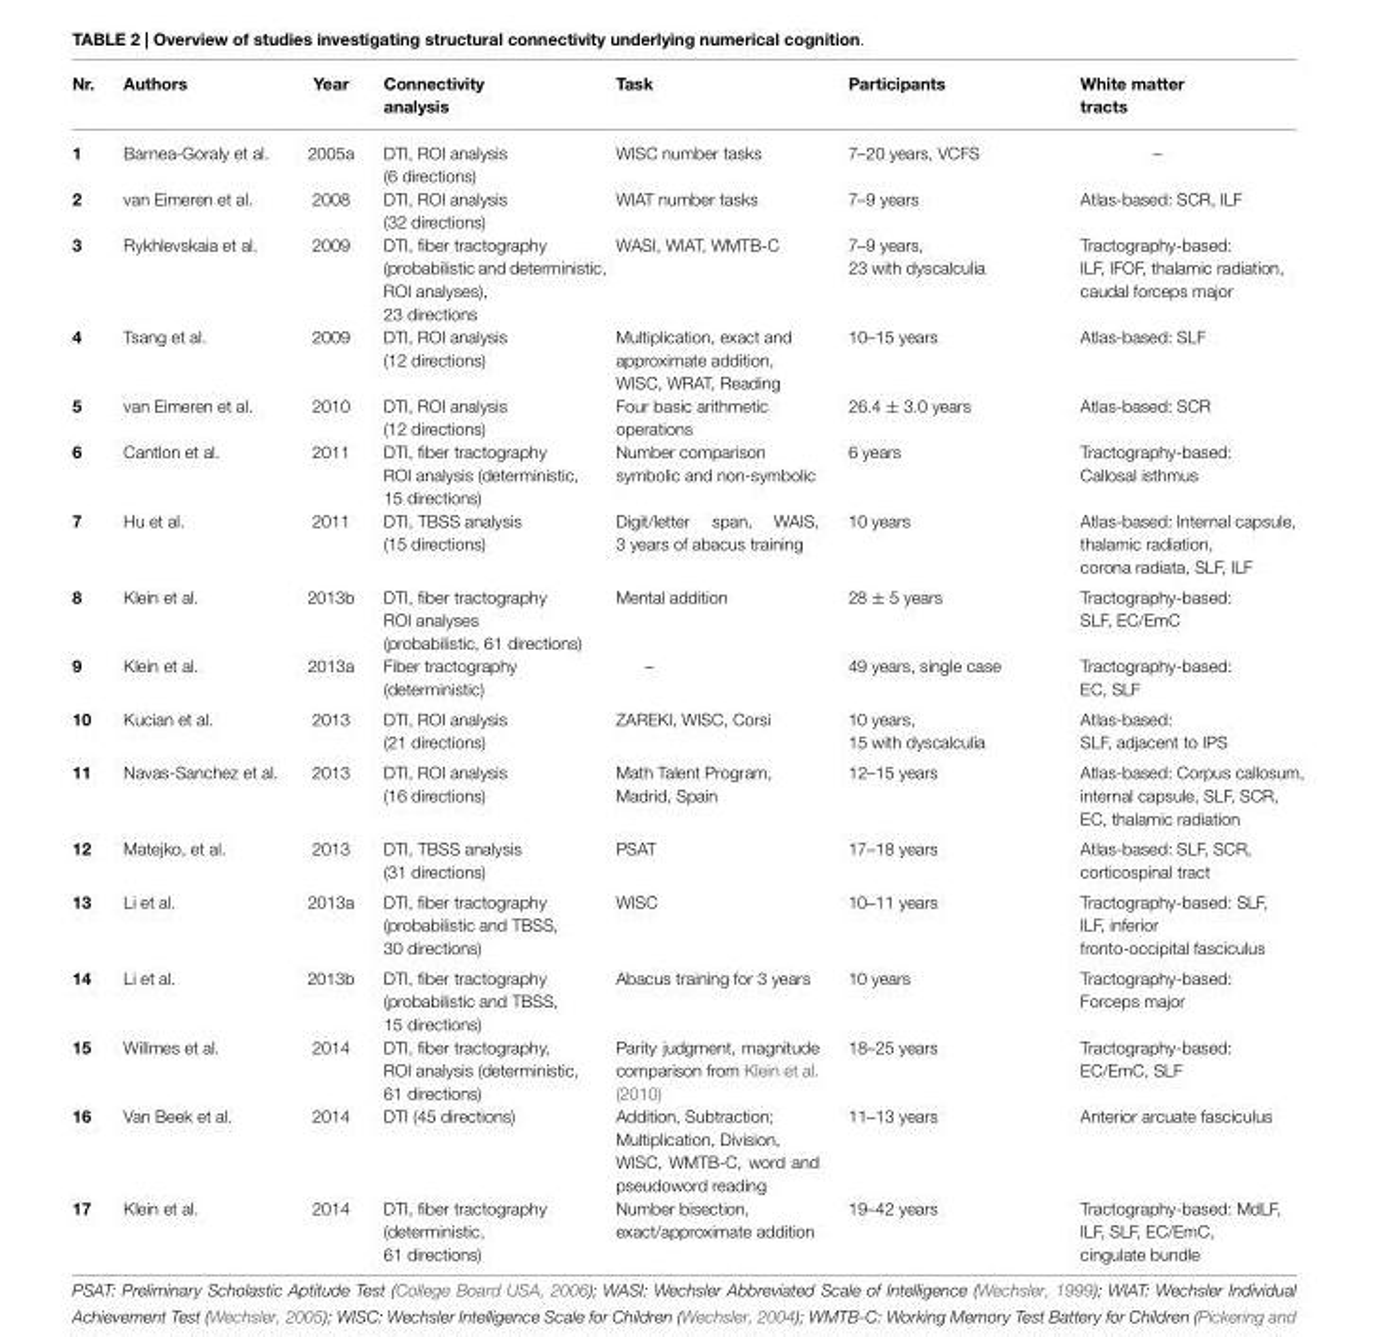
<table><thead><tr><td>Nr.</td><td>Authors</td><td>Year</td><td>Connectivity analysis</td><td>Task</td><td>Participants</td><td>White matter tracts</td></tr></thead><tbody><tr><td>1</td><td>Barnea-Goraly et al.</td><td>2005a</td><td>DTI, ROI analysis (6 directions)</td><td>WISC number tasks</td><td>7–20 years, VCFS</td><td>–</td></tr><tr><td>2</td><td>van Eimeren et al.</td><td>2008</td><td>DTI, ROI analysis (32 directions)</td><td>WIAT number tasks</td><td>7–9 years</td><td>Atlas-based: SCR, ILF</td></tr><tr><td>3</td><td>Rykhlevskaia et al.</td><td>2009</td><td>DTI, fiber tractography (probabilistic and deterministic, ROI analyses), 23 directions</td><td>WASI, WIAT, WMTB-C</td><td>7–9 years, 23 with dyscalculia</td><td>Tractography-based: ILF, IFOF, thalamic radiation, caudal forceps major</td></tr><tr><td>4</td><td>Tsang et al.</td><td>2009</td><td>DTI, ROI analysis (12 directions)</td><td>Multiplication, exact and approximate addition, WISC, WRAT, Reading</td><td>10–15 years</td><td>Atlas-based: SLF</td></tr><tr><td>5</td><td>van Eimeren et al.</td><td>2010</td><td>DTI, ROI analysis (12 directions)</td><td>Four basic arithmetic operations</td><td>26.4 ± 3.0 years</td><td>Atlas-based: SCR</td></tr><tr><td>6</td><td>Cantlon et al.</td><td>2011</td><td>DTI, fiber tractography ROI analysis (deterministic, 15 directions)</td><td>Number comparison symbolic and non-symbolic</td><td>6 years</td><td>Tractography-based: Callosal isthmus</td></tr><tr><td>7</td><td>Hu et al.</td><td>2011</td><td>DTI, TBSS analysis (15 directions)</td><td>Digit/letter span, WAIS, 3 years of abacus training</td><td>10 years</td><td>Atlas-based: Internal capsule, thalamic radiation, corona radiata, SLF, ILF</td></tr><tr><td>8</td><td>Klein et al.</td><td>2013b</td><td>DTI, fiber tractography ROI analyses (probabilistic, 61 directions)</td><td>Mental addition</td><td>28 ± 5 years</td><td>Tractography-based: SLF, EC/EmC</td></tr><tr><td>9</td><td>Klein et al.</td><td>2013a</td><td>Fiber tractography (deterministic)</td><td>–</td><td>49 years, single case</td><td>Tractography-based: EC, SLF</td></tr><tr><td>10</td><td>Kucian et al.</td><td>2013</td><td>DTI, ROI analysis (21 directions)</td><td>ZAREKI, WISC, Corsi</td><td>10 years, 15 with dyscalculia</td><td>Atlas-based: SLF, adjacent to IPS</td></tr><tr><td>11</td><td>Navas-Sanchez et al.</td><td>2013</td><td>DTI, ROI analysis (16 directions)</td><td>Math Talent Program, Madrid, Spain</td><td>12–15 years</td><td>Atlas-based: Corpus callosum, internal capsule, SLF, SCR, EC, thalamic radiation</td></tr><tr><td>12</td><td>Matejko, et al.</td><td>2013</td><td>DTI, TBSS analysis (31 directions)</td><td>PSAT</td><td>17–18 years</td><td>Atlas-based: SLF, SCR, corticospinal tract</td></tr><tr><td>13</td><td>Li et al.</td><td>2013a</td><td>DTI, fiber tractography (probabilistic and TBSS, 30 directions)</td><td>WISC</td><td>10–11 years</td><td>Tractography-based: SLF, ILF, inferior fronto-occipital fasciculus</td></tr><tr><td>14</td><td>Li et al.</td><td>2013b</td><td>DTI, fiber tractography (probabilistic and TBSS, 15 directions)</td><td>Abacus training for 3 years</td><td>10 years</td><td>Tractography-based: Forceps major</td></tr><tr><td>15</td><td>Willmes et al.</td><td>2014</td><td>DTI, fiber tractography, ROI analysis (deterministic, 61 directions)</td><td>Parity judgment, magnitude comparison from Klein et al. (2010)</td><td>18–25 years</td><td>Tractography-based: EC/EmC, SLF</td></tr><tr><td>16</td><td>Van Beek et al.</td><td>2014</td><td>DTI (45 directions)</td><td>Addition, Subtraction; Multiplication, Division, WISC, WMTB-C, word and pseudoword reading</td><td>11–13 years</td><td>Anterior arcuate fasciculus</td></tr><tr><td>17</td><td>Klein et al.</td><td>2014</td><td>DTI, fiber tractography (deterministic, 61 directions)</td><td>Number bisection, exact/approximate addition</td><td>19–42 years</td><td>Tractography-based: MdLF, ILF, SLF, EC/EmC, cingulate bundle</td></tr></tbody></table>